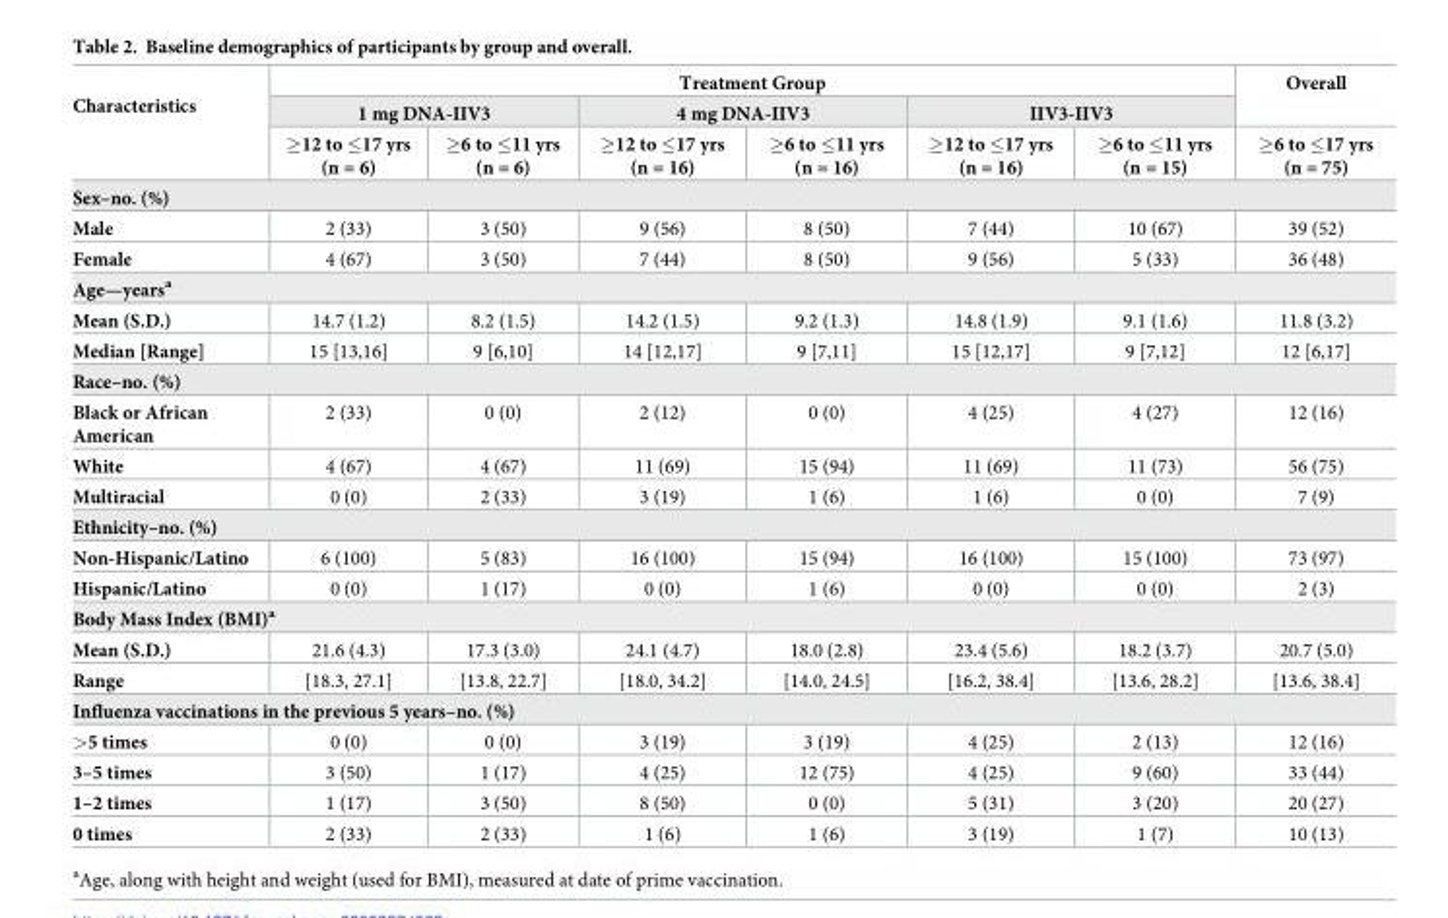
<table><thead><tr><td rowspan="3">Characteristics</td><td colspan="6">Treatment Group</td><td rowspan="3">Overall ≥6 to ≤17 yrs (n = 75)</td></tr><tr><td colspan="2">1 mg DNA-IIV3</td><td colspan="2">4 mg DNA-IIV3</td><td colspan="2">IIV3-IIV3</td></tr><tr><td>≥12 to ≤17 yrs (n = 6)</td><td>≥6 to ≤11 yrs (n = 6)</td><td>≥12 to ≤17 yrs (n = 16)</td><td>≥6 to ≤11 yrs (n = 16)</td><td>≥12 to ≤17 yrs (n = 16)</td><td>≥6 to ≤11 yrs (n = 15)</td></tr></thead><tbody><tr><td colspan="8">Sex–no. (%)</td></tr><tr><td>Male</td><td>2 (33)</td><td>3 (50)</td><td>9 (56)</td><td>8 (50)</td><td>7 (44)</td><td>10 (67)</td><td>39 (52)</td></tr><tr><td>Female</td><td>4 (67)</td><td>3 (50)</td><td>7 (44)</td><td>8 (50)</td><td>9 (56)</td><td>5 (33)</td><td>36 (48)</td></tr><tr><td colspan="8">Age—years<sup>a</sup></td></tr><tr><td>Mean (S.D.)</td><td>14.7 (1.2)</td><td>8.2 (1.5)</td><td>14.2 (1.5)</td><td>9.2 (1.3)</td><td>14.8 (1.9)</td><td>9.1 (1.6)</td><td>11.8 (3.2)</td></tr><tr><td>Median [Range]</td><td>15 [13,16]</td><td>9 [6,10]</td><td>14 [12,17]</td><td>9 [7,11]</td><td>15 [12,17]</td><td>9 [7,12]</td><td>12 [6,17]</td></tr><tr><td colspan="8">Race–no. (%)</td></tr><tr><td>Black or African American</td><td>2 (33)</td><td>0 (0)</td><td>2 (12)</td><td>0 (0)</td><td>4 (25)</td><td>4 (27)</td><td>12 (16)</td></tr><tr><td>White</td><td>4 (67)</td><td>4 (67)</td><td>11 (69)</td><td>15 (94)</td><td>11 (69)</td><td>11 (73)</td><td>56 (75)</td></tr><tr><td>Multiracial</td><td>0 (0)</td><td>2 (33)</td><td>3 (19)</td><td>1 (6)</td><td>1 (6)</td><td>0 (0)</td><td>7 (9)</td></tr><tr><td colspan="8">Ethnicity–no. (%)</td></tr><tr><td>Non-Hispanic/Latino</td><td>6 (100)</td><td>5 (83)</td><td>16 (100)</td><td>15 (94)</td><td>16 (100)</td><td>15 (100)</td><td>73 (97)</td></tr><tr><td>Hispanic/Latino</td><td>0 (0)</td><td>1 (17)</td><td>0 (0)</td><td>1 (6)</td><td>0 (0)</td><td>0 (0)</td><td>2 (3)</td></tr><tr><td colspan="8">Body Mass Index (BMI)<sup>a</sup></td></tr><tr><td>Mean (S.D.)</td><td>21.6 (4.3)</td><td>17.3 (3.0)</td><td>24.1 (4.7)</td><td>18.0 (2.8)</td><td>23.4 (5.6)</td><td>18.2 (3.7)</td><td>20.7 (5.0)</td></tr><tr><td>Range</td><td>[18.3, 27.1]</td><td>[13.8, 22.7]</td><td>[18.0, 34.2]</td><td>[14.0, 24.5]</td><td>[16.2, 38.4]</td><td>[13.6, 28.2]</td><td>[13.6, 38.4]</td></tr><tr><td colspan="8">Influenza vaccinations in the previous 5 years–no. (%)</td></tr><tr><td>&gt;5 times</td><td>0 (0)</td><td>0 (0)</td><td>3 (19)</td><td>3 (19)</td><td>4 (25)</td><td>2 (13)</td><td>12 (16)</td></tr><tr><td>3–5 times</td><td>3 (50)</td><td>1 (17)</td><td>4 (25)</td><td>12 (75)</td><td>4 (25)</td><td>9 (60)</td><td>33 (44)</td></tr><tr><td>1–2 times</td><td>1 (17)</td><td>3 (50)</td><td>8 (50)</td><td>0 (0)</td><td>5 (31)</td><td>3 (20)</td><td>20 (27)</td></tr><tr><td>0 times</td><td>2 (33)</td><td>2 (33)</td><td>1 (6)</td><td>1 (6)</td><td>3 (19)</td><td>1 (7)</td><td>10 (13)</td></tr></tbody></table>